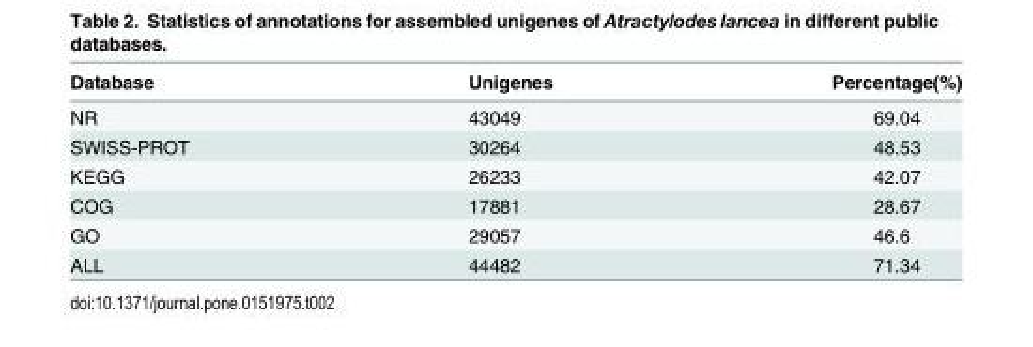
<table><thead><tr><td>Database</td><td>Unigenes</td><td>Percentage(%)</td></tr></thead><tbody><tr><td>NR</td><td>43049</td><td>69.04</td></tr><tr><td>SWISS-PROT</td><td>30264</td><td>48.53</td></tr><tr><td>KEGG</td><td>26233</td><td>42.07</td></tr><tr><td>COG</td><td>17881</td><td>28.67</td></tr><tr><td>GO</td><td>29057</td><td>46.6</td></tr><tr><td>ALL</td><td>44482</td><td>71.34</td></tr></tbody></table>